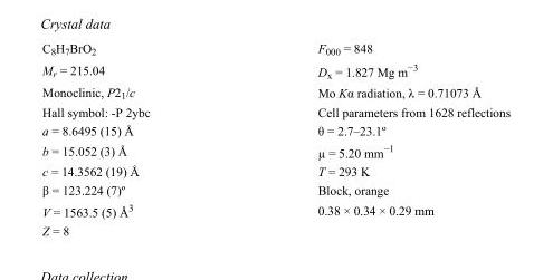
<table><tbody><tr><td>C<sub>8</sub>H<sub>7</sub>BrO<sub>2</sub></td><td>F000 = 848</td></tr><tr><td>M<sub>r</sub> = 215.04</td><td>D<sub>x</sub> = 1.827 Mg m<sup>−3</sup></td></tr><tr><td>Monoclinic, P2<sub>1</sub>/c</td><td>Mo Kα radiation, λ = 0.71073 Å</td></tr><tr><td>Hall symbol: -P 2ybc</td><td>Cell parameters from 1628 reflections</td></tr><tr><td>a = 8.6495 (15) Å</td><td>θ = 2.7–23.1º</td></tr><tr><td>b = 15.052 (3) Å</td><td>µ = 5.20 mm<sup>−1</sup></td></tr><tr><td>c = 14.3562 (19) Å</td><td>T = 293 K</td></tr><tr><td>β = 123.224 (7)º</td><td>Block, orange</td></tr><tr><td>V = 1563.5 (5) Å<sup>3</sup></td><td>0.38 × 0.34 × 0.29 mm</td></tr><tr><td>Z = 8</td><td></td></tr></tbody></table>